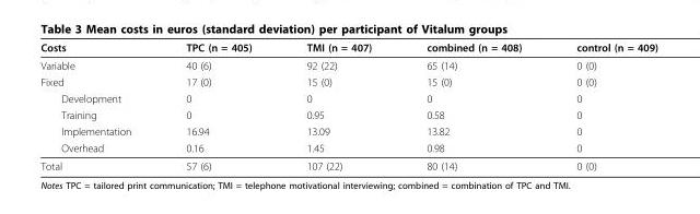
<table><thead><tr><td>Costs</td><td>TPC (n = 405)</td><td>TMI (n = 407)</td><td>combined (n = 408)</td><td>control (n = 409)</td></tr></thead><tbody><tr><td>Variable</td><td>40 (6)</td><td>92 (22)</td><td>65 (14)</td><td>0 (0)</td></tr><tr><td>Fixed</td><td>17 (0)</td><td>15 (0)</td><td>15 (0)</td><td>0 (0)</td></tr><tr><td>Development</td><td>0</td><td>0</td><td>0</td><td>0</td></tr><tr><td>Training</td><td>0</td><td>0.95</td><td>0.58</td><td>0</td></tr><tr><td>Implementation</td><td>16.94</td><td>13.09</td><td>13.82</td><td>0</td></tr><tr><td>Overhead</td><td>0.16</td><td>1.45</td><td>0.98</td><td>0</td></tr><tr><td>Total</td><td>57 (6)</td><td>107 (22)</td><td>80 (14)</td><td>0 (0)</td></tr></tbody></table>